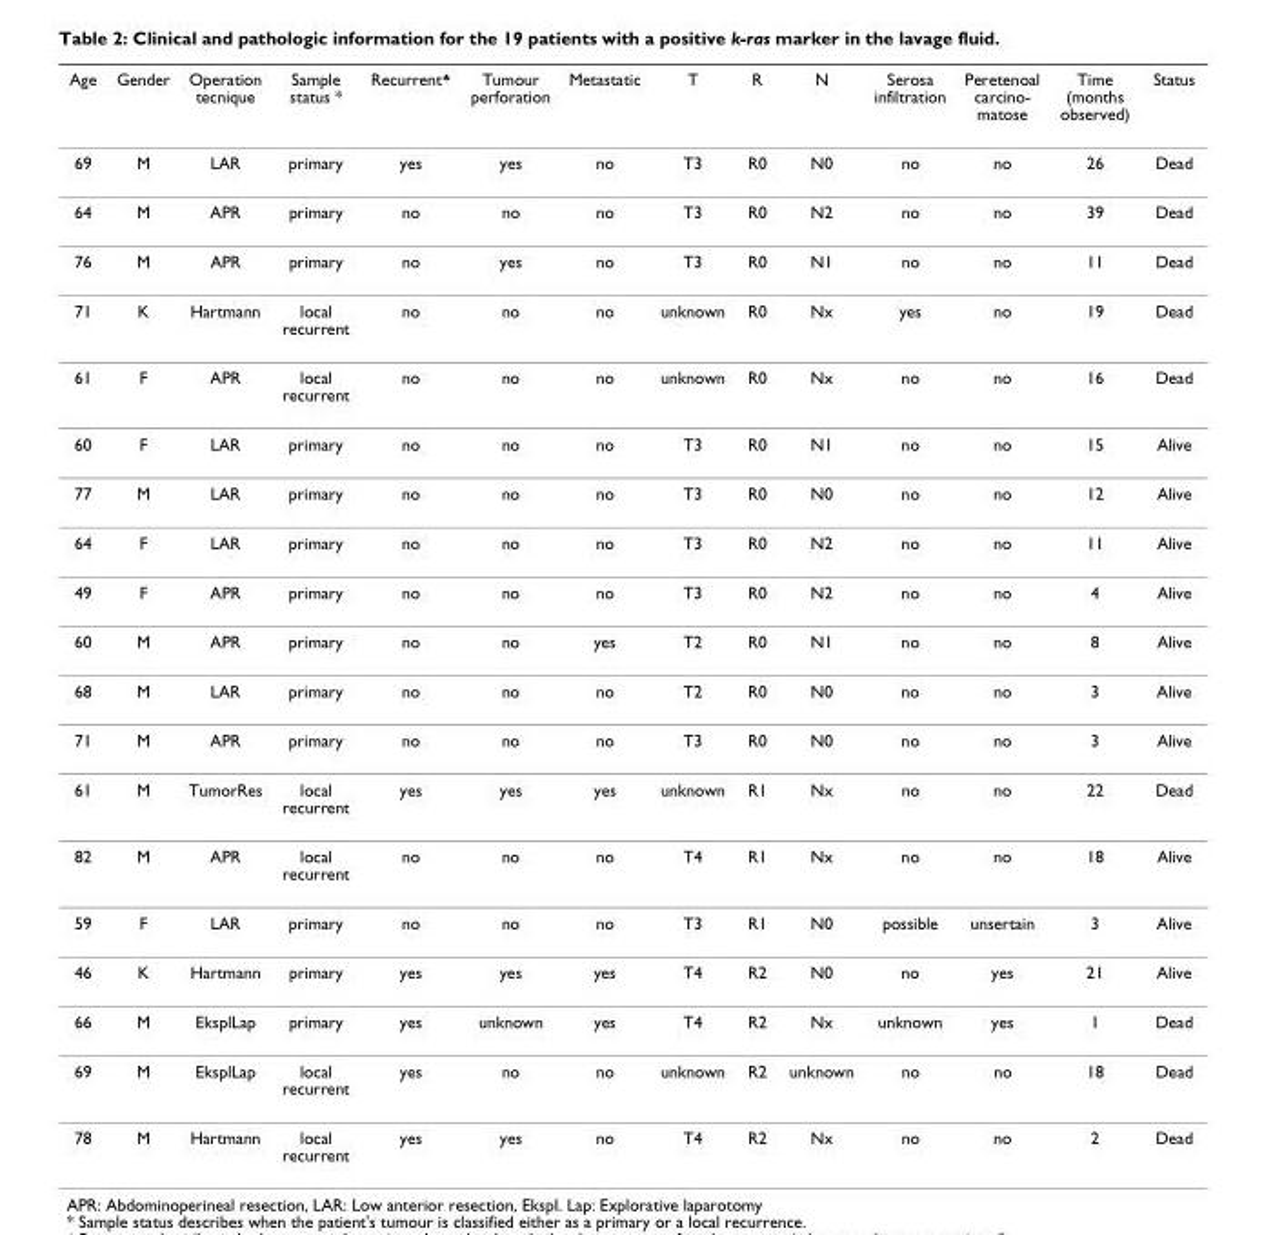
<table><thead><tr><td>Age</td><td>Gender</td><td>Operation tecnique</td><td>Sample status *</td><td>Recurrent<sup>♣</sup></td><td>Tumour perforation</td><td>Metastatic</td><td>T</td><td>R</td><td>N</td><td>Serosa infiltration</td><td>Peretenoal carcino- matose</td><td>Time (months observed)</td><td>Status</td></tr></thead><tbody><tr><td>69</td><td>M</td><td>LAR</td><td>primary</td><td>yes</td><td>yes</td><td>no</td><td>T3</td><td>R0</td><td>N0</td><td>no</td><td>no</td><td>26</td><td>Dead</td></tr><tr><td>64</td><td>M</td><td>APR</td><td>primary</td><td>no</td><td>no</td><td>no</td><td>T3</td><td>R0</td><td>N2</td><td>no</td><td>no</td><td>39</td><td>Dead</td></tr><tr><td>76</td><td>M</td><td>APR</td><td>primary</td><td>no</td><td>yes</td><td>no</td><td>T3</td><td>R0</td><td>N1</td><td>no</td><td>no</td><td>11</td><td>Dead</td></tr><tr><td>71</td><td>K</td><td>Hartmann</td><td>local recurrent</td><td>no</td><td>no</td><td>no</td><td>unknown</td><td>R0</td><td>Nx</td><td>yes</td><td>no</td><td>19</td><td>Dead</td></tr><tr><td>61</td><td>F</td><td>APR</td><td>local recurrent</td><td>no</td><td>no</td><td>no</td><td>unknown</td><td>R0</td><td>Nx</td><td>no</td><td>no</td><td>16</td><td>Dead</td></tr><tr><td>60</td><td>F</td><td>LAR</td><td>primary</td><td>no</td><td>no</td><td>no</td><td>T3</td><td>R0</td><td>N1</td><td>no</td><td>no</td><td>15</td><td>Alive</td></tr><tr><td>77</td><td>M</td><td>LAR</td><td>primary</td><td>no</td><td>no</td><td>no</td><td>T3</td><td>R0</td><td>N0</td><td>no</td><td>no</td><td>12</td><td>Alive</td></tr><tr><td>64</td><td>F</td><td>LAR</td><td>primary</td><td>no</td><td>no</td><td>no</td><td>T3</td><td>R0</td><td>N2</td><td>no</td><td>no</td><td>11</td><td>Alive</td></tr><tr><td>49</td><td>F</td><td>APR</td><td>primary</td><td>no</td><td>no</td><td>no</td><td>T3</td><td>R0</td><td>N2</td><td>no</td><td>no</td><td>4</td><td>Alive</td></tr><tr><td>60</td><td>M</td><td>APR</td><td>primary</td><td>no</td><td>no</td><td>yes</td><td>T2</td><td>R0</td><td>N1</td><td>no</td><td>no</td><td>8</td><td>Alive</td></tr><tr><td>68</td><td>M</td><td>LAR</td><td>primary</td><td>no</td><td>no</td><td>no</td><td>T2</td><td>R0</td><td>N0</td><td>no</td><td>no</td><td>3</td><td>Alive</td></tr><tr><td>71</td><td>M</td><td>APR</td><td>primary</td><td>no</td><td>no</td><td>no</td><td>T3</td><td>R0</td><td>N0</td><td>no</td><td>no</td><td>3</td><td>Alive</td></tr><tr><td>61</td><td>M</td><td>TumorRes</td><td>local recurrent</td><td>yes</td><td>yes</td><td>yes</td><td>unknown</td><td>R1</td><td>Nx</td><td>no</td><td>no</td><td>22</td><td>Dead</td></tr><tr><td>82</td><td>M</td><td>APR</td><td>local recurrent</td><td>no</td><td>no</td><td>no</td><td>T4</td><td>R1</td><td>Nx</td><td>no</td><td>no</td><td>18</td><td>Alive</td></tr><tr><td>59</td><td>F</td><td>LAR</td><td>primary</td><td>no</td><td>no</td><td>no</td><td>T3</td><td>R1</td><td>N0</td><td>possible</td><td>unsertain</td><td>3</td><td>Alive</td></tr><tr><td>46</td><td>K</td><td>Hartmann</td><td>primary</td><td>yes</td><td>yes</td><td>yes</td><td>T4</td><td>R2</td><td>N0</td><td>no</td><td>yes</td><td>21</td><td>Alive</td></tr><tr><td>66</td><td>M</td><td>EksplLap</td><td>primary</td><td>yes</td><td>unknown</td><td>yes</td><td>T4</td><td>R2</td><td>Nx</td><td>unknown</td><td>yes</td><td>1</td><td>Dead</td></tr><tr><td>69</td><td>M</td><td>EksplLap</td><td>local recurrent</td><td>yes</td><td>no</td><td>no</td><td>unknown</td><td>R2</td><td>unknown</td><td>no</td><td>no</td><td>18</td><td>Dead</td></tr><tr><td>78</td><td>M</td><td>Hartmann</td><td>local recurrent</td><td>yes</td><td>yes</td><td>no</td><td>T4</td><td>R2</td><td>Nx</td><td>no</td><td>no</td><td>2</td><td>Dead</td></tr></tbody></table>